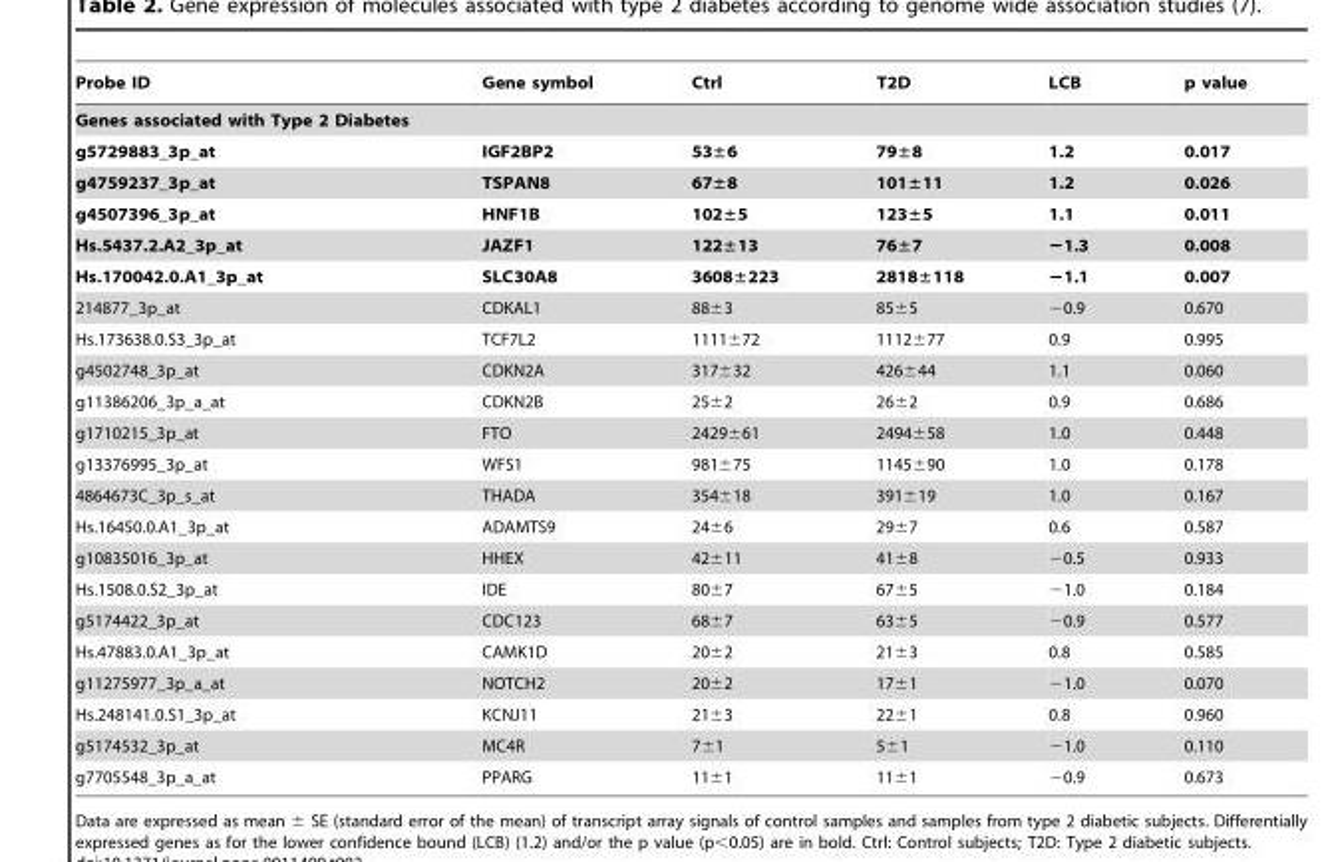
<table><thead><tr><td>Probe ID</td><td>Gene symbol</td><td>Ctrl</td><td>T2D</td><td>LCB</td><td>p value</td></tr></thead><tbody><tr><td colspan="6">Genes associated with Type 2 Diabetes</td></tr><tr><td>g5729883_3p_at</td><td>IGF2BP2</td><td>53±6</td><td>79±8</td><td>1.2</td><td>0.017</td></tr><tr><td>g4759237_3p_at</td><td>TSPAN8</td><td>67±8</td><td>101±11</td><td>1.2</td><td>0.026</td></tr><tr><td>g4507396_3p_at</td><td>HNF1B</td><td>102±5</td><td>123±5</td><td>1.1</td><td>0.011</td></tr><tr><td>Hs.5437.2.A2_3p_at</td><td>JAZF1</td><td>122±13</td><td>76±7</td><td>−1.3</td><td>0.008</td></tr><tr><td>Hs.170042.0.A1_3p_at</td><td>SLC30A8</td><td>3608±223</td><td>2818±118</td><td>−1.1</td><td>0.007</td></tr><tr><td>214877_3p_at</td><td>CDKAL1</td><td>88±3</td><td>85±5</td><td>−0.9</td><td>0.670</td></tr><tr><td>Hs.173638.0.S3_3p_at</td><td>TCF7L2</td><td>1111±72</td><td>1112±77</td><td>0.9</td><td>0.995</td></tr><tr><td>g4502748_3p_at</td><td>CDKN2A</td><td>317±32</td><td>426±44</td><td>1.1</td><td>0.060</td></tr><tr><td>g11386206_3p_a_at</td><td>CDKN2B</td><td>25±2</td><td>26±2</td><td>0.9</td><td>0.686</td></tr><tr><td>g1710215_3p_at</td><td>FTO</td><td>2429±61</td><td>2494±58</td><td>1.0</td><td>0.448</td></tr><tr><td>g13376995_3p_at</td><td>WFS1</td><td>981±75</td><td>1145±90</td><td>1.0</td><td>0.178</td></tr><tr><td>4864673C_3p_s_at</td><td>THADA</td><td>354±18</td><td>391±19</td><td>1.0</td><td>0.167</td></tr><tr><td>Hs.16450.0.A1_3p_at</td><td>ADAMTS9</td><td>24±6</td><td>29±7</td><td>0.6</td><td>0.587</td></tr><tr><td>g10835016_3p_at</td><td>HHEX</td><td>42±11</td><td>41±8</td><td>−0.5</td><td>0.933</td></tr><tr><td>Hs.1508.0.S2_3p_at</td><td>IDE</td><td>80±7</td><td>67±5</td><td>−1.0</td><td>0.184</td></tr><tr><td>g5174422_3p_at</td><td>CDC123</td><td>68±7</td><td>63±5</td><td>−0.9</td><td>0.577</td></tr><tr><td>Hs.47883.0.A1_3p_at</td><td>CAMK1D</td><td>20±2</td><td>21±3</td><td>0.8</td><td>0.585</td></tr><tr><td>g11275977_3p_a_at</td><td>NOTCH2</td><td>20±2</td><td>17±1</td><td>−1.0</td><td>0.070</td></tr><tr><td>Hs.248141.0.S1_3p_at</td><td>KCNJ11</td><td>21±3</td><td>22±1</td><td>0.8</td><td>0.960</td></tr><tr><td>g5174532_3p_at</td><td>MC4R</td><td>7±1</td><td>5±1</td><td>−1.0</td><td>0.110</td></tr><tr><td>g7705548_3p_a_at</td><td>PPARG</td><td>11±1</td><td>11±1</td><td>−0.9</td><td>0.673</td></tr></tbody></table>